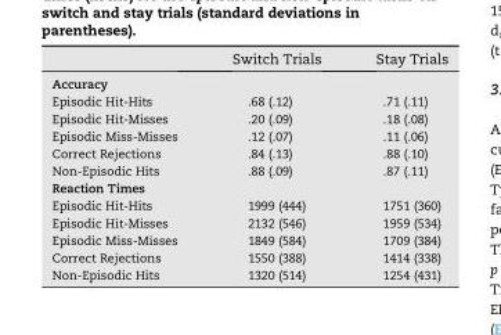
<table><thead><tr><td></td><td>Switch Trials</td><td>Stay Trials</td></tr></thead><tbody><tr><td colspan="3">Accuracy</td></tr><tr><td>Episodic Hit-Hits</td><td>.68 (.12)</td><td>.71 (.11)</td></tr><tr><td>Episodic Hit-Misses</td><td>.20 (.09)</td><td>.18 (.08)</td></tr><tr><td>Episodic Miss-Misses</td><td>.12 (.07)</td><td>.11 (.06)</td></tr><tr><td>Correct Rejections</td><td>.84 (.13)</td><td>.88 (.10)</td></tr><tr><td>Non-Episodic Hits</td><td>.88 (.09)</td><td>.87 (.11)</td></tr><tr><td colspan="3">Reaction Times</td></tr><tr><td>Episodic Hit-Hits</td><td>1999 (444)</td><td>1751 (360)</td></tr><tr><td>Episodic Hit-Misses</td><td>2132 (546)</td><td>1959 (534)</td></tr><tr><td>Episodic Miss-Misses</td><td>1849 (584)</td><td>1709 (384)</td></tr><tr><td>Correct Rejections</td><td>1550 (388)</td><td>1414 (338)</td></tr><tr><td>Non-Episodic Hits</td><td>1320 (514)</td><td>1254 (431)</td></tr></tbody></table>